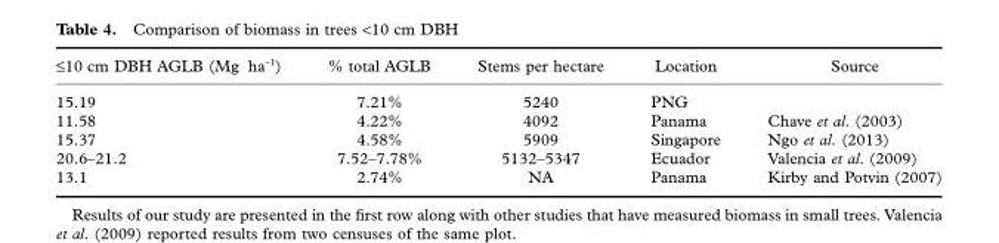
<table><thead><tr><td>≤10 cm DBH AGLB (Mg ha<sup>−1</sup>)</td><td>% total AGLB</td><td>Stems per hectare</td><td>Location</td><td>Source</td></tr></thead><tbody><tr><td>15.19</td><td>7.21%</td><td>5240</td><td>PNG</td><td></td></tr><tr><td>11.58</td><td>4.22%</td><td>4092</td><td>Panama</td><td>Chave et al. (2003)</td></tr><tr><td>15.37</td><td>4.58%</td><td>5909</td><td>Singapore</td><td>Ngo et al. (2013)</td></tr><tr><td>20.6–21.2</td><td>7.52–7.78%</td><td>5132–5347</td><td>Ecuador</td><td>Valencia et al. (2009)</td></tr><tr><td>13.1</td><td>2.74%</td><td>NA</td><td>Panama</td><td>Kirby and Potvin (2007)</td></tr></tbody></table>